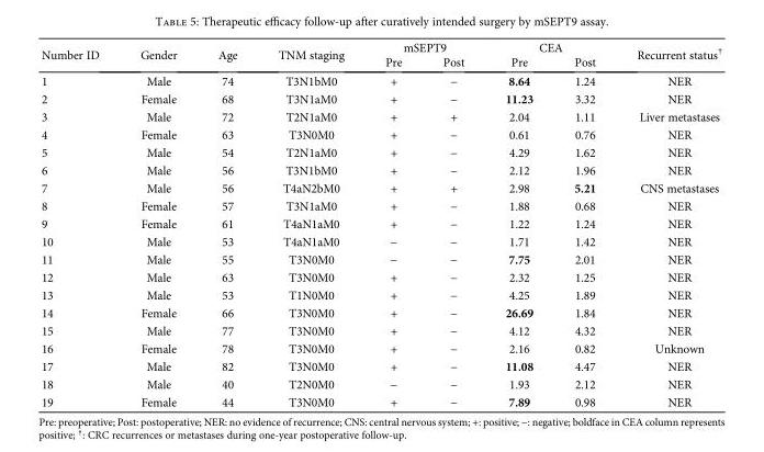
<table><thead><tr><td rowspan="2">Number ID</td><td rowspan="2">Gender</td><td rowspan="2">Age</td><td rowspan="2">TNM staging</td><td colspan="2">mSEPT9</td><td colspan="2">CEA</td><td rowspan="2">Recurrent status<sup>†</sup></td></tr><tr><td>Pre</td><td>Post</td><td>Pre</td><td>Post</td></tr></thead><tbody><tr><td>1</td><td>Male</td><td>74</td><td>T3N1bM0</td><td>+</td><td>−</td><td>8.64</td><td>1.24</td><td>NER</td></tr><tr><td>2</td><td>Female</td><td>68</td><td>T3N1aM0</td><td>+</td><td>−</td><td>11.23</td><td>3.32</td><td>NER</td></tr><tr><td>3</td><td>Male</td><td>72</td><td>T2N1aM0</td><td>+</td><td>+</td><td>2.04</td><td>1.11</td><td>Liver metastases</td></tr><tr><td>4</td><td>Female</td><td>63</td><td>T3N0M0</td><td>+</td><td>−</td><td>0.61</td><td>0.76</td><td>NER</td></tr><tr><td>5</td><td>Male</td><td>54</td><td>T2N1aM0</td><td>+</td><td>−</td><td>4.29</td><td>1.62</td><td>NER</td></tr><tr><td>6</td><td>Male</td><td>56</td><td>T3N1bM0</td><td>+</td><td>−</td><td>2.12</td><td>1.96</td><td>NER</td></tr><tr><td>7</td><td>Male</td><td>56</td><td>T4aN2bM0</td><td>+</td><td>+</td><td>2.98</td><td>5.21</td><td>CNS metastases</td></tr><tr><td>8</td><td>Female</td><td>57</td><td>T3N1aM0</td><td>+</td><td>−</td><td>1.88</td><td>0.68</td><td>NER</td></tr><tr><td>9</td><td>Female</td><td>61</td><td>T4aN1aM0</td><td>+</td><td>−</td><td>1.22</td><td>1.24</td><td>NER</td></tr><tr><td>10</td><td>Male</td><td>53</td><td>T4aN1aM0</td><td>−</td><td>−</td><td>1.71</td><td>1.42</td><td>NER</td></tr><tr><td>11</td><td>Male</td><td>55</td><td>T3N0M0</td><td>−</td><td>−</td><td>7.75</td><td>2.01</td><td>NER</td></tr><tr><td>12</td><td>Male</td><td>63</td><td>T3N0M0</td><td>+</td><td>−</td><td>2.32</td><td>1.25</td><td>NER</td></tr><tr><td>13</td><td>Male</td><td>53</td><td>T1N0M0</td><td>+</td><td>−</td><td>4.25</td><td>1.89</td><td>NER</td></tr><tr><td>14</td><td>Female</td><td>66</td><td>T3N0M0</td><td>+</td><td>−</td><td>26.69</td><td>1.84</td><td>NER</td></tr><tr><td>15</td><td>Male</td><td>77</td><td>T3N0M0</td><td>+</td><td>−</td><td>4.12</td><td>4.32</td><td>NER</td></tr><tr><td>16</td><td>Female</td><td>78</td><td>T3N0M0</td><td>+</td><td>−</td><td>2.16</td><td>0.82</td><td>Unknown</td></tr><tr><td>17</td><td>Male</td><td>82</td><td>T3N0M0</td><td>+</td><td>−</td><td>11.08</td><td>4.47</td><td>NER</td></tr><tr><td>18</td><td>Male</td><td>40</td><td>T2N0M0</td><td>−</td><td>−</td><td>1.93</td><td>2.12</td><td>NER</td></tr><tr><td>19</td><td>Female</td><td>44</td><td>T3N0M0</td><td>+</td><td>−</td><td>7.89</td><td>0.98</td><td>NER</td></tr></tbody></table>